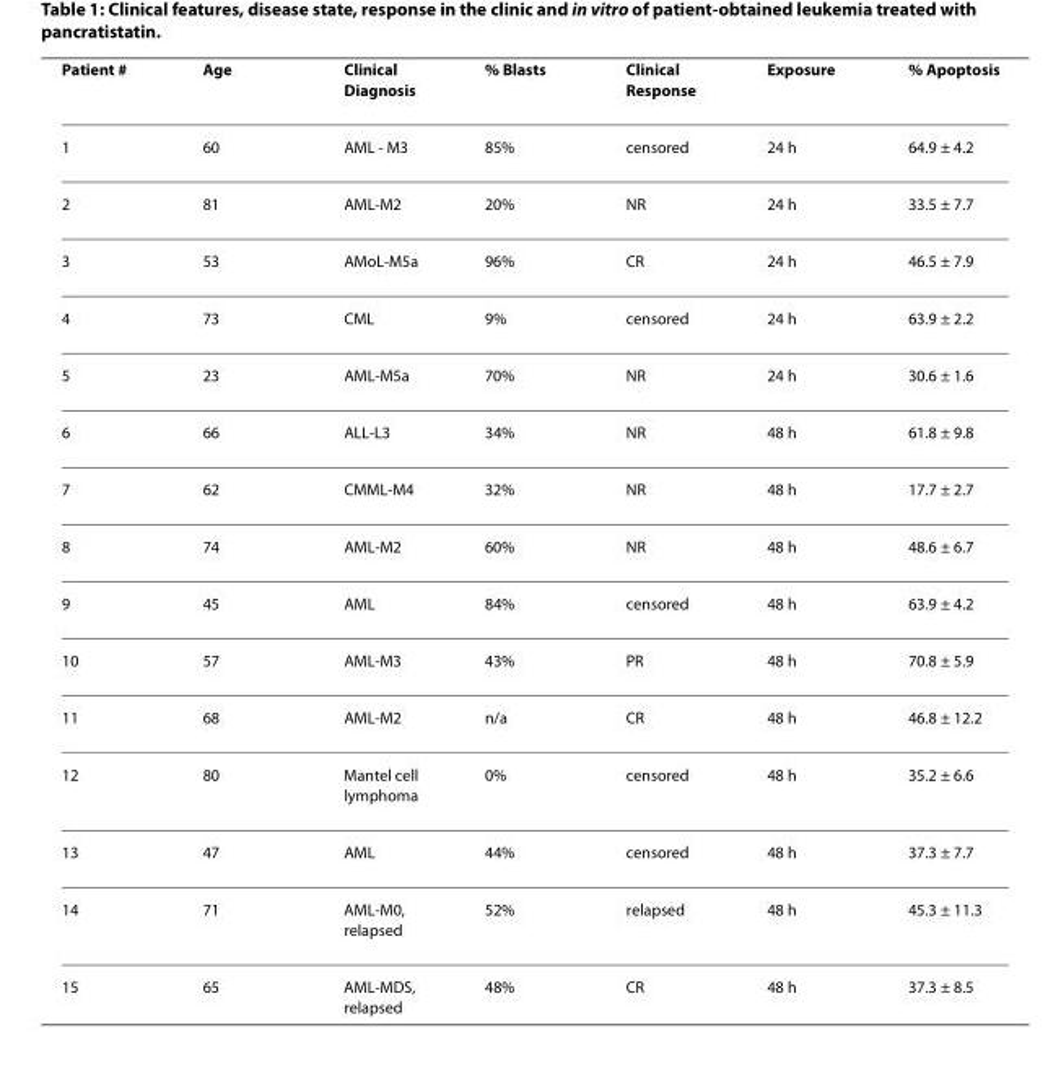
<table><thead><tr><td>Patient #</td><td>Age</td><td>Clinical Diagnosis</td><td>% Blasts</td><td>Clinical Response</td><td>Exposure</td><td>% Apoptosis</td></tr></thead><tbody><tr><td>1</td><td>60</td><td>AML - M3</td><td>85%</td><td>censored</td><td>24 h</td><td>64.9 ± 4.2</td></tr><tr><td>2</td><td>81</td><td>AML-M2</td><td>20%</td><td>NR</td><td>24 h</td><td>33.5 ± 7.7</td></tr><tr><td>3</td><td>53</td><td>AMoL-M5a</td><td>96%</td><td>CR</td><td>24 h</td><td>46.5 ± 7.9</td></tr><tr><td>4</td><td>73</td><td>CML</td><td>9%</td><td>censored</td><td>24 h</td><td>63.9 ± 2.2</td></tr><tr><td>5</td><td>23</td><td>AML-M5a</td><td>70%</td><td>NR</td><td>24 h</td><td>30.6 ± 1.6</td></tr><tr><td>6</td><td>66</td><td>ALL-L3</td><td>34%</td><td>NR</td><td>48 h</td><td>61.8 ± 9.8</td></tr><tr><td>7</td><td>62</td><td>CMML-M4</td><td>32%</td><td>NR</td><td>48 h</td><td>17.7 ± 2.7</td></tr><tr><td>8</td><td>74</td><td>AML-M2</td><td>60%</td><td>NR</td><td>48 h</td><td>48.6 ± 6.7</td></tr><tr><td>9</td><td>45</td><td>AML</td><td>84%</td><td>censored</td><td>48 h</td><td>63.9 ± 4.2</td></tr><tr><td>10</td><td>57</td><td>AML-M3</td><td>43%</td><td>PR</td><td>48 h</td><td>70.8 ± 5.9</td></tr><tr><td>11</td><td>68</td><td>AML-M2</td><td>n/a</td><td>CR</td><td>48 h</td><td>46.8 ± 12.2</td></tr><tr><td>12</td><td>80</td><td>Mantel cell lymphoma</td><td>0%</td><td>censored</td><td>48 h</td><td>35.2 ± 6.6</td></tr><tr><td>13</td><td>47</td><td>AML</td><td>44%</td><td>censored</td><td>48 h</td><td>37.3 ± 7.7</td></tr><tr><td>14</td><td>71</td><td>AML-M0, relapsed</td><td>52%</td><td>relapsed</td><td>48 h</td><td>45.3 ± 11.3</td></tr><tr><td>15</td><td>65</td><td>AML-MDS, relapsed</td><td>48%</td><td>CR</td><td>48 h</td><td>37.3 ± 8.5</td></tr></tbody></table>